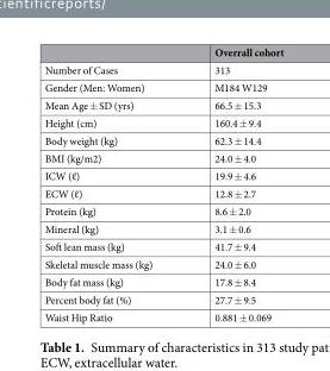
<table><thead><tr><td></td><td>Overrall cohort</td></tr></thead><tbody><tr><td>Number of Cases</td><td>313</td></tr><tr><td>Gender (Men: Women)</td><td>M184 W129</td></tr><tr><td>Mean Age ± SD (yrs)</td><td>66.5 ± 15.3</td></tr><tr><td>Height (cm)</td><td>160.4 ± 9.4</td></tr><tr><td>Body weight (kg)</td><td>62.3 ± 14.4</td></tr><tr><td>BMI (kg/m2)</td><td>24.0 ± 4.0</td></tr><tr><td>ICW (ℓ)</td><td>19.9 ± 4.6</td></tr><tr><td>ECW (ℓ)</td><td>12.8 ± 2.7</td></tr><tr><td>Protein (kg)</td><td>8.6 ± 2.0</td></tr><tr><td>Mineral (kg)</td><td>3.1 ± 0.6</td></tr><tr><td>Soft lean mass (kg)</td><td>41.7 ± 9.4</td></tr><tr><td>Skeletal muscle mass (kg)</td><td>24.0 ± 6.0</td></tr><tr><td>Body fat mass (kg)</td><td>17.8 ± 8.4</td></tr><tr><td>Percent body fat (%)</td><td>27.7 ± 9.5</td></tr><tr><td>Waist Hip Ratio</td><td>0.881 ± 0.069</td></tr></tbody></table>